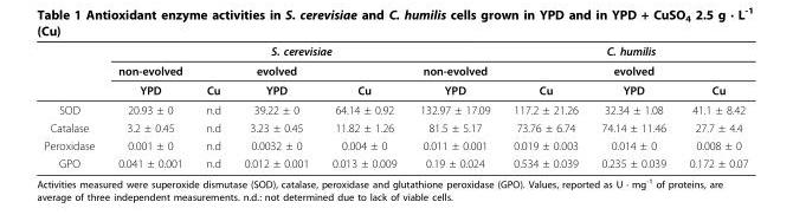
<table><thead><tr><td rowspan="3"></td><td rowspan="3">non-evolved YPD</td><td colspan="3">S. cerevisiae</td><td rowspan="3">non-evolved YPD</td><td colspan="3">C. humilis</td></tr><tr><td rowspan="2">Cu</td><td rowspan="2">evolved YPD</td><td rowspan="2">Cu</td><td rowspan="2">Cu</td><td rowspan="2">evolved YPD</td><td rowspan="2">Cu</td></tr><tr></tr></thead><tbody><tr><td>SOD</td><td>20.93 ± 0</td><td>n.d</td><td>39.22 ± 0</td><td>64.14 ± 0.92</td><td>132.97 ± 17.09</td><td>117.2 ± 21.26</td><td>32.34 ± 1.08</td><td>41.1 ± 8.42</td></tr><tr><td>Catalase</td><td>3.2 ± 0.45</td><td>n.d</td><td>3.23 ± 0.45</td><td>11.82 ± 1.26</td><td>81.5 ± 5.17</td><td>73.76 ± 6.74</td><td>74.14 ± 11.46</td><td>27.7 ± 4.4</td></tr><tr><td>Peroxidase</td><td>0.001 ± 0</td><td>n.d</td><td>0.0032 ± 0</td><td>0.004 ± 0</td><td>0.011 ± 0.001</td><td>0.019 ± 0.003</td><td>0.014 ± 0</td><td>0.008 ± 0</td></tr><tr><td>GPO</td><td>0.041 ± 0.001</td><td>n.d</td><td>0.012 ± 0.001</td><td>0.013 ± 0.009</td><td>0.19 ± 0.024</td><td>0.534 ± 0.039</td><td>0.235 ± 0.039</td><td>0.172 ± 0.07</td></tr></tbody></table>